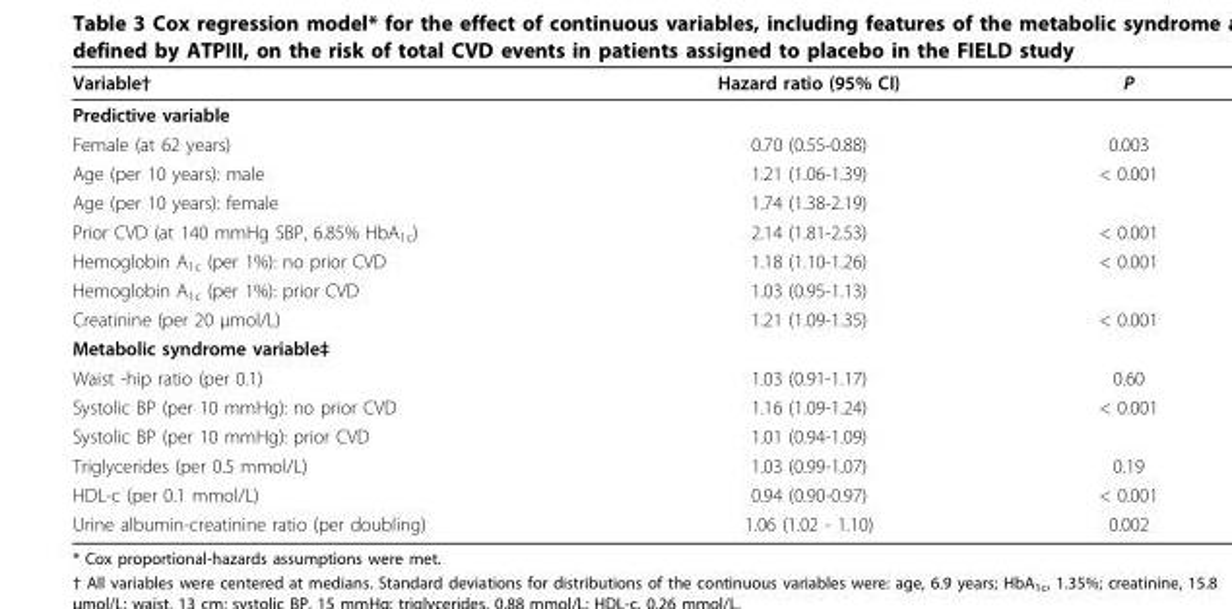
<table><thead><tr><td>Variable†</td><td>Hazard ratio (95% CI)</td><td>P</td></tr></thead><tbody><tr><td colspan="3">Predictive variable</td></tr><tr><td>Female (at 62 years)</td><td>0.70 (0.55-0.88)</td><td>0.003</td></tr><tr><td>Age (per 10 years): male</td><td>1.21 (1.06-1.39)</td><td>&lt; 0.001</td></tr><tr><td>Age (per 10 years): female</td><td>1.74 (1.38-2.19)</td><td></td></tr><tr><td>Prior CVD (at 140 mmHg SBP, 6.85% HbA<sub>1c</sub>)</td><td>2.14 (1.81-2.53)</td><td>&lt; 0.001</td></tr><tr><td>Hemoglobin A<sub>1c</sub> (per 1%): no prior CVD</td><td>1.18 (1.10-1.26)</td><td>&lt; 0.001</td></tr><tr><td>Hemoglobin A<sub>1c</sub> (per 1%): prior CVD</td><td>1.03 (0.95-1.13)</td><td></td></tr><tr><td>Creatinine (per 20 μmol/L)</td><td>1.21 (1.09-1.35)</td><td>&lt; 0.001</td></tr><tr><td colspan="3">Metabolic syndrome variable‡</td></tr><tr><td>Waist -hip ratio (per 0.1)</td><td>1.03 (0.91-1.17)</td><td>0.60</td></tr><tr><td>Systolic BP (per 10 mmHg): no prior CVD</td><td>1.16 (1.09-1.24)</td><td>&lt; 0.001</td></tr><tr><td>Systolic BP (per 10 mmHg): prior CVD</td><td>1.01 (0.94-1.09)</td><td></td></tr><tr><td>Triglycerides (per 0.5 mmol/L)</td><td>1.03 (0.99-1.07)</td><td>0.19</td></tr><tr><td>HDL-c (per 0.1 mmol/L)</td><td>0.94 (0.90-0.97)</td><td>&lt; 0.001</td></tr><tr><td>Urine albumin-creatinine ratio (per doubling)</td><td>1.06 (1.02 - 1.10)</td><td>0.002</td></tr></tbody></table>